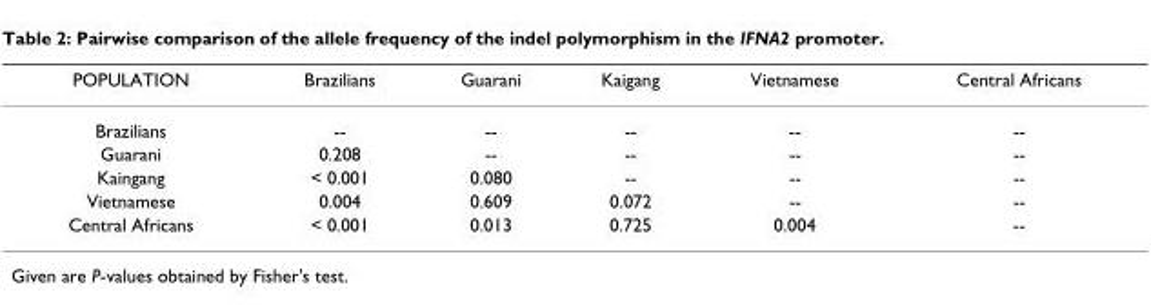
<table><thead><tr><td>POPULATION</td><td>Brazilians</td><td>Guarani</td><td>Kaigang</td><td>Vietnamese</td><td>Central Africans</td></tr></thead><tbody><tr><td>Brazilians</td><td>--</td><td>--</td><td>--</td><td>--</td><td>--</td></tr><tr><td>Guarani</td><td>0.208</td><td>--</td><td>--</td><td>--</td><td>--</td></tr><tr><td>Kaingang</td><td>&lt; 0.001</td><td>0.080</td><td>--</td><td>--</td><td>--</td></tr><tr><td>Vietnamese</td><td>0.004</td><td>0.609</td><td>0.072</td><td>--</td><td>--</td></tr><tr><td>Central Africans</td><td>&lt; 0.001</td><td>0.013</td><td>0.725</td><td>0.004</td><td>--</td></tr></tbody></table>